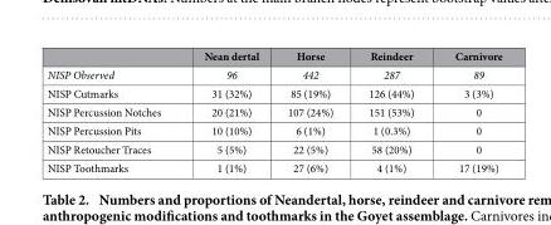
<table><thead><tr><td></td><td>Nean dertal</td><td>Horse</td><td>Reindeer</td><td>Carnivore</td></tr></thead><tbody><tr><td>NISP Observed</td><td>96</td><td>442</td><td>287</td><td>89</td></tr><tr><td>NISP Cutmarks</td><td>31 (32%)</td><td>85 (19%)</td><td>126 (44%)</td><td>3 (3%)</td></tr><tr><td>NISP Percussion Notches</td><td>20 (21%)</td><td>107 (24%)</td><td>151 (53%)</td><td>0</td></tr><tr><td>NISP Percussion Pits</td><td>10 (10%)</td><td>6 (1%)</td><td>1 (0.3%)</td><td>0</td></tr><tr><td>NISP Retoucher Traces</td><td>5 (5%)</td><td>22 (5%)</td><td>58 (20%)</td><td>0</td></tr><tr><td>NISP Toothmarks</td><td>1 (1%)</td><td>27 (6%)</td><td>4 (1%)</td><td>17 (19%)</td></tr></tbody></table>